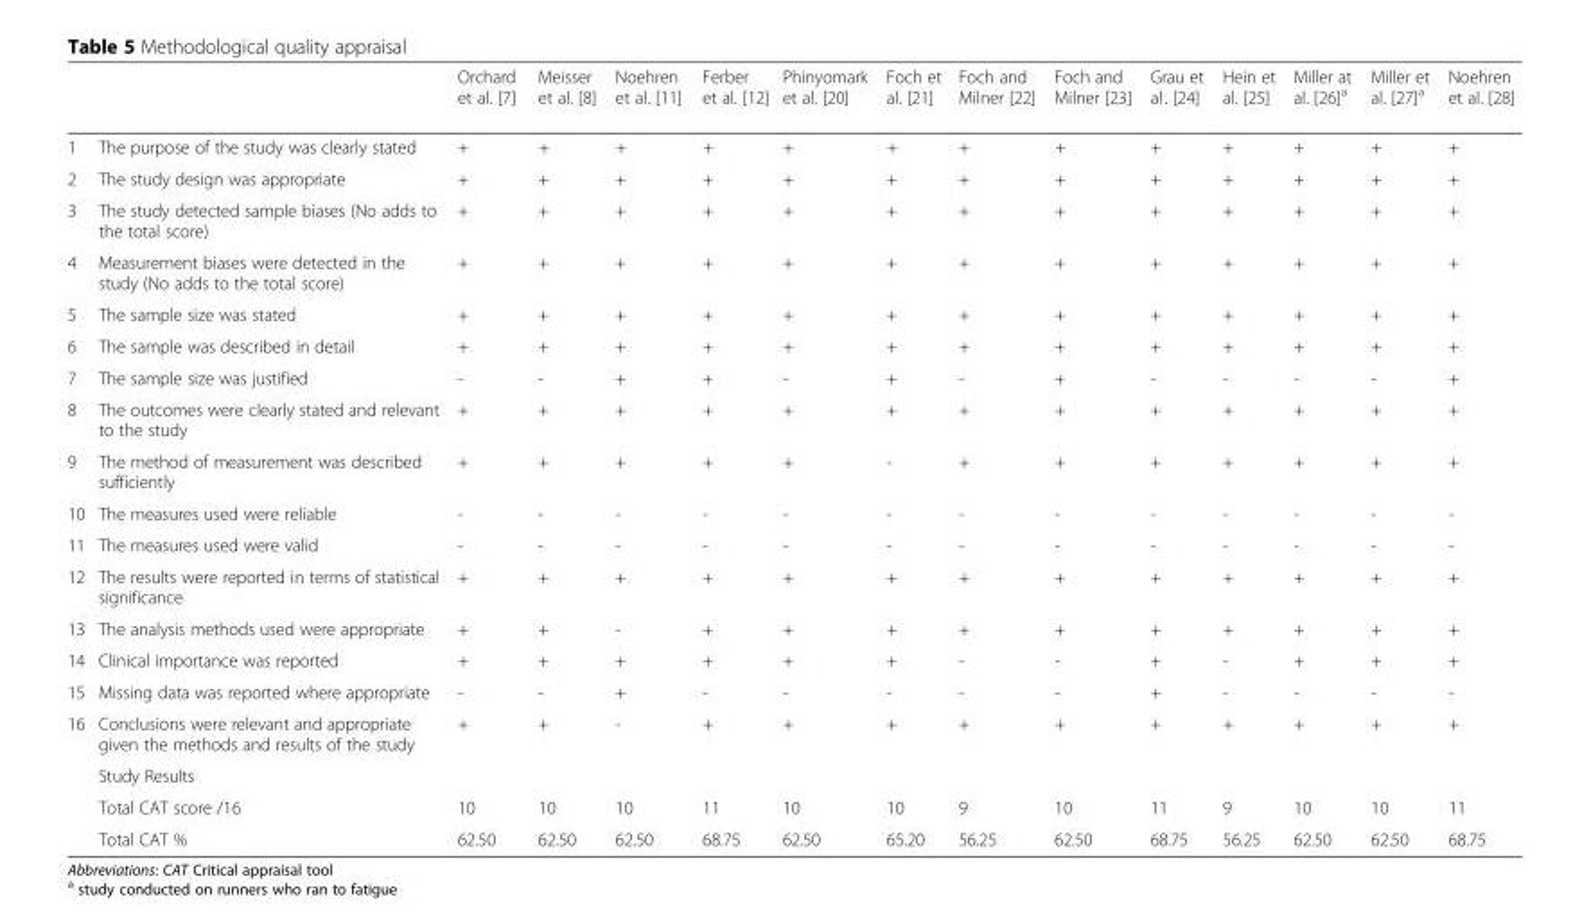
<table><thead><tr><td></td><td></td><td>Orchard et al. [7]</td><td>Meisser et al. [8]</td><td>Noehren et al. [11]</td><td>Ferber et al. [12]</td><td>Phinyomark et al. [20]</td><td>Foch et al. [21]</td><td>Foch and Milner [22]</td><td>Foch and Milner [23]</td><td>Grau et al<sup>.</sup>. [24]</td><td>Hein et al. [25]</td><td>Miller at al. [26]<sup>a</sup></td><td>Miller et al. [27]<sup>a</sup></td><td>Noehren et al. [28]</td></tr></thead><tbody><tr><td>1</td><td>The purpose of the study was clearly stated</td><td>+</td><td>+</td><td>+</td><td>+</td><td>+</td><td>+</td><td>+</td><td>+</td><td>+</td><td>+</td><td>+</td><td>+</td><td>+</td></tr><tr><td>2</td><td>The study design was appropriate</td><td>+</td><td>+</td><td>+</td><td>+</td><td>+</td><td>+</td><td>+</td><td>+</td><td>+</td><td>+</td><td>+</td><td>+</td><td>+</td></tr><tr><td>3</td><td>The study detected sample biases (No adds to the total score)</td><td>+</td><td>+</td><td>+</td><td>+</td><td>+</td><td>+</td><td>+</td><td>+</td><td>+</td><td>+</td><td>+</td><td>+</td><td>+</td></tr><tr><td>4</td><td>Measurement biases were detected in the study (No adds to the total score)</td><td>+</td><td>+</td><td>+</td><td>+</td><td>+</td><td>+</td><td>+</td><td>+</td><td>+</td><td>+</td><td>+</td><td>+</td><td>+</td></tr><tr><td>5</td><td>The sample size was stated</td><td>+</td><td>+</td><td>+</td><td>+</td><td>+</td><td>+</td><td>+</td><td>+</td><td>+</td><td>+</td><td>+</td><td>+</td><td>+</td></tr><tr><td>6</td><td>The sample was described in detail</td><td>+</td><td>+</td><td>+</td><td>+</td><td>+</td><td>+</td><td>+</td><td>+</td><td>+</td><td>+</td><td>+</td><td>+</td><td>+</td></tr><tr><td>7</td><td>The sample size was justified</td><td>-</td><td>-</td><td>+</td><td>+</td><td>-</td><td>+</td><td>-</td><td>+</td><td>-</td><td>-</td><td>-</td><td>-</td><td>+</td></tr><tr><td>8</td><td>The outcomes were clearly stated and relevant to the study</td><td>+</td><td>+</td><td>+</td><td>+</td><td>+</td><td>+</td><td>+</td><td>+</td><td>+</td><td>+</td><td>+</td><td>+</td><td>+</td></tr><tr><td>9</td><td>The method of measurement was described sufficiently</td><td>+</td><td>+</td><td>+</td><td>+</td><td>+</td><td>-</td><td>+</td><td>+</td><td>+</td><td>+</td><td>+</td><td>+</td><td>+</td></tr><tr><td>10</td><td>The measures used were reliable</td><td>-</td><td>-</td><td>-</td><td>-</td><td>-</td><td>-</td><td>-</td><td>-</td><td>-</td><td>-</td><td>-</td><td>-</td><td>-</td></tr><tr><td>11</td><td>The measures used were valid</td><td>-</td><td>-</td><td>-</td><td>-</td><td>-</td><td>-</td><td>-</td><td>-</td><td>-</td><td>-</td><td>-</td><td>-</td><td>-</td></tr><tr><td>12</td><td>The results were reported in terms of statistical significance</td><td>+</td><td>+</td><td>+</td><td>+</td><td>+</td><td>+</td><td>+</td><td>+</td><td>+</td><td>+</td><td>+</td><td>+</td><td>+</td></tr><tr><td>13</td><td>The analysis methods used were appropriate</td><td>+</td><td>+</td><td>-</td><td>+</td><td>+</td><td>+</td><td>+</td><td>+</td><td>+</td><td>+</td><td>+</td><td>+</td><td>+</td></tr><tr><td>14</td><td>Clinical importance was reported</td><td>+</td><td>+</td><td>+</td><td>+</td><td>+</td><td>+</td><td>-</td><td>-</td><td>+</td><td>-</td><td>+</td><td>+</td><td>+</td></tr><tr><td>15</td><td>Missing data was reported where appropriate</td><td>-</td><td>-</td><td>+</td><td>-</td><td>-</td><td>-</td><td>-</td><td>-</td><td>+</td><td>-</td><td>-</td><td>-</td><td>-</td></tr><tr><td rowspan="4">16</td><td>Conclusions were relevant and appropriate given the methods and results of the study</td><td>+</td><td>+</td><td>-</td><td>+</td><td>+</td><td>+</td><td>+</td><td>+</td><td>+</td><td>+</td><td>+</td><td>+</td><td>+</td></tr><tr><td>Study Results</td><td></td><td></td><td></td><td></td><td></td><td></td><td></td><td></td><td></td><td></td><td></td><td></td><td></td></tr><tr><td>Total CAT score /16</td><td>10</td><td>10</td><td>10</td><td>11</td><td>10</td><td>10</td><td>9</td><td>10</td><td>11</td><td>9</td><td>10</td><td>10</td><td>11</td></tr><tr><td>Total CAT %</td><td>62.50</td><td>62.50</td><td>62.50</td><td>68.75</td><td>62.50</td><td>65.20</td><td>56.25</td><td>62.50</td><td>68.75</td><td>56.25</td><td>62.50</td><td>62.50</td><td>68.75</td></tr></tbody></table>